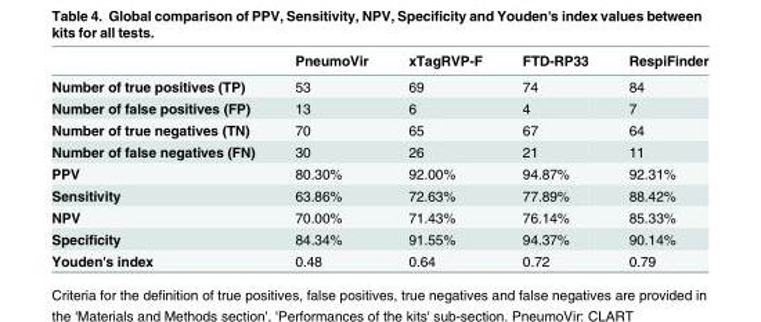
<table><thead><tr><td></td><td>PneumoVir</td><td>xTagRVP-F</td><td>FTD-RP33</td><td>RespiFinder</td></tr></thead><tbody><tr><td>Number of true positives (TP)</td><td>53</td><td>69</td><td>74</td><td>84</td></tr><tr><td>Number of false positives (FP)</td><td>13</td><td>6</td><td>4</td><td>7</td></tr><tr><td>Number of true negatives (TN)</td><td>70</td><td>65</td><td>67</td><td>64</td></tr><tr><td>Number of false negatives (FN)</td><td>30</td><td>26</td><td>21</td><td>11</td></tr><tr><td>PPV</td><td>80.30%</td><td>92.00%</td><td>94.87%</td><td>92.31%</td></tr><tr><td>Sensitivity</td><td>63.86%</td><td>72.63%</td><td>77.89%</td><td>88.42%</td></tr><tr><td>NPV</td><td>70.00%</td><td>71.43%</td><td>76.14%</td><td>85.33%</td></tr><tr><td>Specificity</td><td>84.34%</td><td>91.55%</td><td>94.37%</td><td>90.14%</td></tr><tr><td>Youden&#x27;s index</td><td>0.48</td><td>0.64</td><td>0.72</td><td>0.79</td></tr></tbody></table>